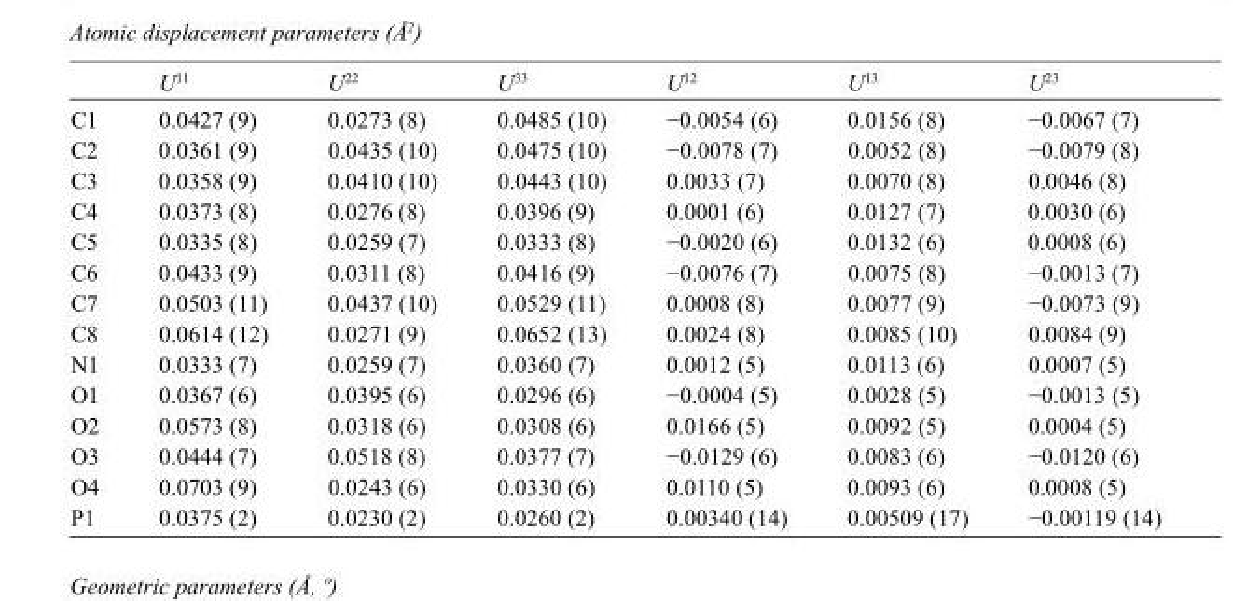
<table><thead><tr><td></td><td>U<sup>11</sup></td><td>U<sup>22</sup></td><td>U<sup>33</sup></td><td>U<sup>12</sup></td><td>U<sup>13</sup></td><td>U<sup>23</sup></td></tr></thead><tbody><tr><td>C1</td><td>0.0427 (9)</td><td>0.0273 (8)</td><td>0.0485 (10)</td><td>−0.0054 (6)</td><td>0.0156 (8)</td><td>−0.0067 (7)</td></tr><tr><td>C2</td><td>0.0361 (9)</td><td>0.0435 (10)</td><td>0.0475 (10)</td><td>−0.0078 (7)</td><td>0.0052 (8)</td><td>−0.0079 (8)</td></tr><tr><td>C3</td><td>0.0358 (9)</td><td>0.0410 (10)</td><td>0.0443 (10)</td><td>0.0033 (7)</td><td>0.0070 (8)</td><td>0.0046 (8)</td></tr><tr><td>C4</td><td>0.0373 (8)</td><td>0.0276 (8)</td><td>0.0396 (9)</td><td>0.0001 (6)</td><td>0.0127 (7)</td><td>0.0030 (6)</td></tr><tr><td>C5</td><td>0.0335 (8)</td><td>0.0259 (7)</td><td>0.0333 (8)</td><td>−0.0020 (6)</td><td>0.0132 (6)</td><td>0.0008 (6)</td></tr><tr><td>C6</td><td>0.0433 (9)</td><td>0.0311 (8)</td><td>0.0416 (9)</td><td>−0.0076 (7)</td><td>0.0075 (8)</td><td>−0.0013 (7)</td></tr><tr><td>C7</td><td>0.0503 (11)</td><td>0.0437 (10)</td><td>0.0529 (11)</td><td>0.0008 (8)</td><td>0.0077 (9)</td><td>−0.0073 (9)</td></tr><tr><td>C8</td><td>0.0614 (12)</td><td>0.0271 (9)</td><td>0.0652 (13)</td><td>0.0024 (8)</td><td>0.0085 (10)</td><td>0.0084 (9)</td></tr><tr><td>N1</td><td>0.0333 (7)</td><td>0.0259 (7)</td><td>0.0360 (7)</td><td>0.0012 (5)</td><td>0.0113 (6)</td><td>0.0007 (5)</td></tr><tr><td>O1</td><td>0.0367 (6)</td><td>0.0395 (6)</td><td>0.0296 (6)</td><td>−0.0004 (5)</td><td>0.0028 (5)</td><td>−0.0013 (5)</td></tr><tr><td>O2</td><td>0.0573 (8)</td><td>0.0318 (6)</td><td>0.0308 (6)</td><td>0.0166 (5)</td><td>0.0092 (5)</td><td>0.0004 (5)</td></tr><tr><td>O3</td><td>0.0444 (7)</td><td>0.0518 (8)</td><td>0.0377 (7)</td><td>−0.0129 (6)</td><td>0.0083 (6)</td><td>−0.0120 (6)</td></tr><tr><td>O4</td><td>0.0703 (9)</td><td>0.0243 (6)</td><td>0.0330 (6)</td><td>0.0110 (5)</td><td>0.0093 (6)</td><td>0.0008 (5)</td></tr><tr><td>P1</td><td>0.0375 (2)</td><td>0.0230 (2)</td><td>0.0260 (2)</td><td>0.00340 (14)</td><td>0.00509 (17)</td><td>−0.00119 (14)</td></tr></tbody></table>